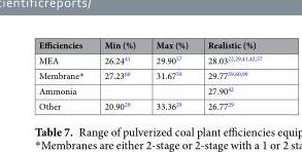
<table><thead><tr><td>Efficiencies</td><td>Min (%)</td><td>Max (%)</td><td>Realistic (%)</td></tr></thead><tbody><tr><td>MEA</td><td>26.24<sup>41</sup></td><td>29.90<sup>57</sup></td><td>28.03<sup>22,29,41,42,57</sup></td></tr><tr><td>Membrane*</td><td>27.23<sup>60</sup></td><td>31.67<sup>59</sup></td><td>29.77<sup>59,60,99</sup></td></tr><tr><td>Ammonia</td><td></td><td></td><td>27.90<sup>42</sup></td></tr><tr><td>Other</td><td>20.90<sup>29</sup></td><td>33.36<sup>29</sup></td><td>26.77<sup>29</sup></td></tr></tbody></table>